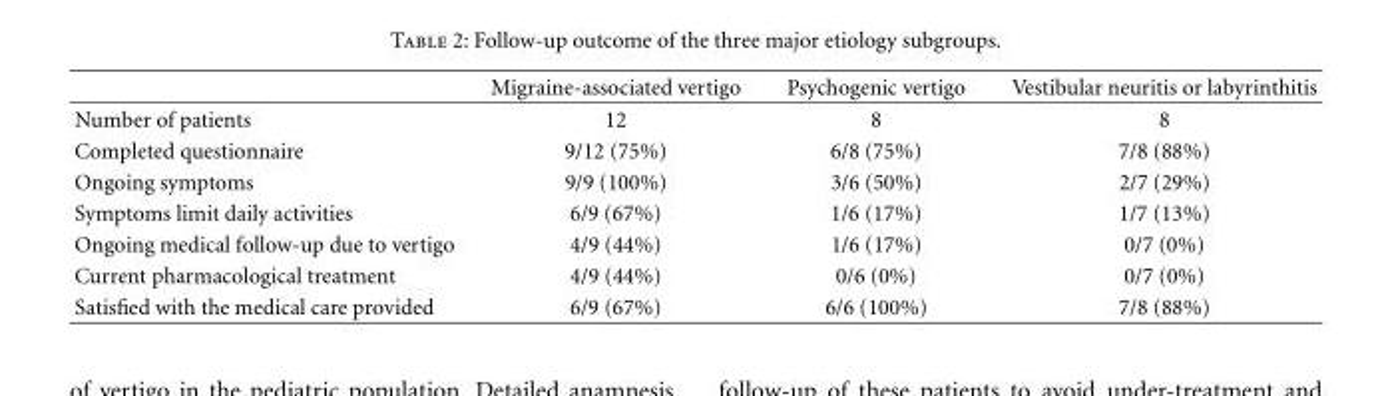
<table><thead><tr><td></td><td>Migraine-associated vertigo</td><td>Psychogenic vertigo</td><td>Vestibular neuritis or labyrinthitis</td></tr></thead><tbody><tr><td>Number of patients</td><td>12</td><td>8</td><td>8</td></tr><tr><td>Completed questionnaire</td><td>9/12 (75%)</td><td>6/8 (75%)</td><td>7/8 (88%)</td></tr><tr><td>Ongoing symptoms</td><td>9/9 (100%)</td><td>3/6 (50%)</td><td>2/7 (29%)</td></tr><tr><td>Symptoms limit daily activities</td><td>6/9 (67%)</td><td>1/6 (17%)</td><td>1/7 (13%)</td></tr><tr><td>Ongoing medical follow-up due to vertigo</td><td>4/9 (44%)</td><td>1/6 (17%)</td><td>0/7 (0%)</td></tr><tr><td>Current pharmacological treatment</td><td>4/9 (44%)</td><td>0/6 (0%)</td><td>0/7 (0%)</td></tr><tr><td>Satisfied with the medical care provided</td><td>6/9 (67%)</td><td>6/6 (100%)</td><td>7/8 (88%)</td></tr></tbody></table>